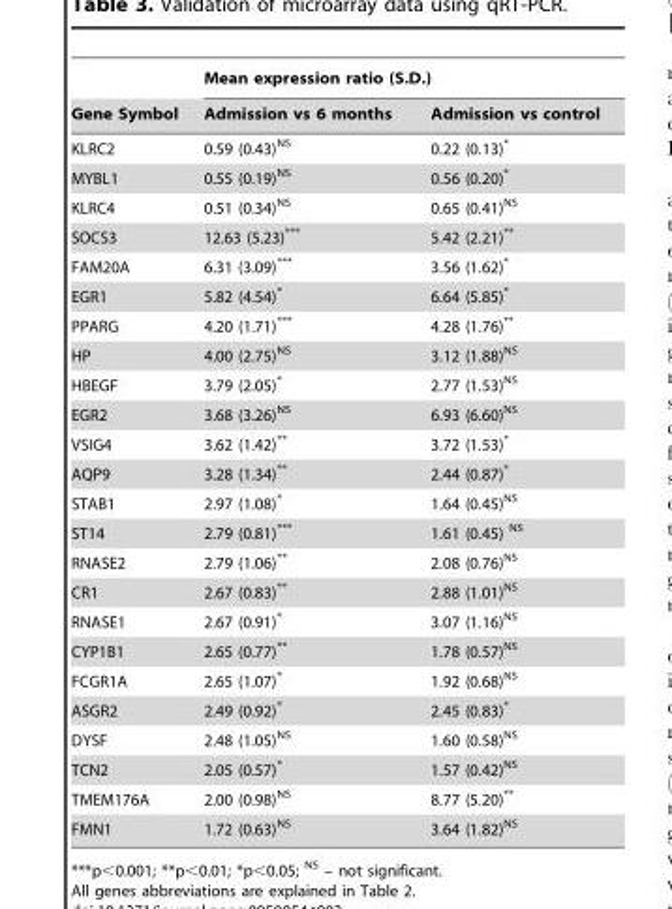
<table><thead><tr><td rowspan="2">Gene Symbol</td><td colspan="2">Mean expression ratio (S.D.)</td></tr><tr><td>Admission vs 6 months</td><td>Admission vs control</td></tr></thead><tbody><tr><td>KLRC2</td><td>0.59 (0.43)<sup>NS</sup></td><td>0.22 (0.13)*</td></tr><tr><td>MYBL1</td><td>0.55 (0.19)<sup>NS</sup></td><td>0.56 (0.20)*</td></tr><tr><td>KLRC4</td><td>0.51 (0.34)<sup>NS</sup></td><td>0.65 (0.41)<sup>NS</sup></td></tr><tr><td>SOCS3</td><td>12.63 (5.23)***</td><td>5.42 (2.21)**</td></tr><tr><td>FAM20A</td><td>6.31 (3.09)***</td><td>3.56 (1.62)*</td></tr><tr><td>EGR1</td><td>5.82 (4.54)*</td><td>6.64 (5.85)*</td></tr><tr><td>PPARG</td><td>4.20 (1.71)***</td><td>4.28 (1.76)**</td></tr><tr><td>HP</td><td>4.00 (2.75)<sup>NS</sup></td><td>3.12 (1.88)<sup>NS</sup></td></tr><tr><td>HBEGF</td><td>3.79 (2.05)*</td><td>2.77 (1.53)<sup>NS</sup></td></tr><tr><td>EGR2</td><td>3.68 (3.26)<sup>NS</sup></td><td>6.93 (6.60)<sup>NS</sup></td></tr><tr><td>VSIG4</td><td>3.62 (1.42)**</td><td>3.72 (1.53)*</td></tr><tr><td>AQP9</td><td>3.28 (1.34)**</td><td>2.44 (0.87)*</td></tr><tr><td>STAB1</td><td>2.97 (1.08)*</td><td>1.64 (0.45)<sup>NS</sup></td></tr><tr><td>ST14</td><td>2.79 (0.81)***</td><td>1.61 (0.45) <sup>NS</sup></td></tr><tr><td>RNASE2</td><td>2.79 (1.06)**</td><td>2.08 (0.76)<sup>NS</sup></td></tr><tr><td>CR1</td><td>2.67 (0.83)**</td><td>2.88 (1.01)<sup>NS</sup></td></tr><tr><td>RNASE1</td><td>2.67 (0.91)*</td><td>3.07 (1.16)<sup>NS</sup></td></tr><tr><td>CYP1B1</td><td>2.65 (0.77)**</td><td>1.78 (0.57)<sup>NS</sup></td></tr><tr><td>FCGR1A</td><td>2.65 (1.07)*</td><td>1.92 (0.68)<sup>NS</sup></td></tr><tr><td>ASGR2</td><td>2.49 (0.92)*</td><td>2.45 (0.83)*</td></tr><tr><td>DYSF</td><td>2.48 (1.05)<sup>NS</sup></td><td>1.60 (0.58)<sup>NS</sup></td></tr><tr><td>TCN2</td><td>2.05 (0.57)*</td><td>1.57 (0.42)<sup>NS</sup></td></tr><tr><td>TMEM176A</td><td>2.00 (0.98)<sup>NS</sup></td><td>8.77 (5.20)**</td></tr><tr><td>FMN1</td><td>1.72 (0.63)<sup>NS</sup></td><td>3.64 (1.82)<sup>NS</sup></td></tr></tbody></table>